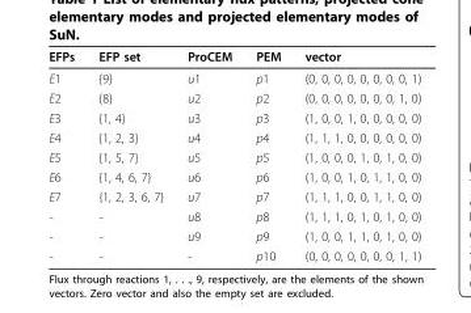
<table><thead><tr><td>EFPs</td><td>EFP set</td><td>ProCEM</td><td>PEM</td><td>vector</td></tr></thead><tbody><tr><td>E1</td><td>{9}</td><td>u1</td><td>p1</td><td>(0, 0, 0, 0, 0, 0, 0, 0, 1)</td></tr><tr><td>E2</td><td>{8}</td><td>u2</td><td>p2</td><td>(0, 0, 0, 0, 0, 0, 0, 1, 0)</td></tr><tr><td>E3</td><td>{1, 4}</td><td>u3</td><td>p3</td><td>(1, 0, 0, 1, 0, 0, 0, 0, 0)</td></tr><tr><td>E4</td><td>{1, 2, 3}</td><td>u4</td><td>p4</td><td>(1, 1, 1, 0, 0, 0, 0, 0, 0)</td></tr><tr><td>E5</td><td>{1, 5, 7}</td><td>u5</td><td>p5</td><td>(1, 0, 0, 0, 1, 0, 1, 0, 0)</td></tr><tr><td>E6</td><td>{1, 4, 6, 7}</td><td>u6</td><td>p6</td><td>(1, 0, 0, 1, 0, 1, 1, 0, 0)</td></tr><tr><td>E7</td><td>{1, 2, 3, 6, 7}</td><td>u7</td><td>p7</td><td>(1, 1, 1, 0, 0, 1, 1, 0, 0)</td></tr><tr><td>-</td><td>-</td><td>u8</td><td>p8</td><td>(1, 1, 1, 0, 1, 0, 1, 0, 0)</td></tr><tr><td>-</td><td>-</td><td>u9</td><td>p9</td><td>(1, 0, 0, 1, 1, 0, 1, 0, 0)</td></tr><tr><td>-</td><td>-</td><td>-</td><td>p10</td><td>(0, 0, 0, 0, 0, 0, 0, 1, 1)</td></tr></tbody></table>